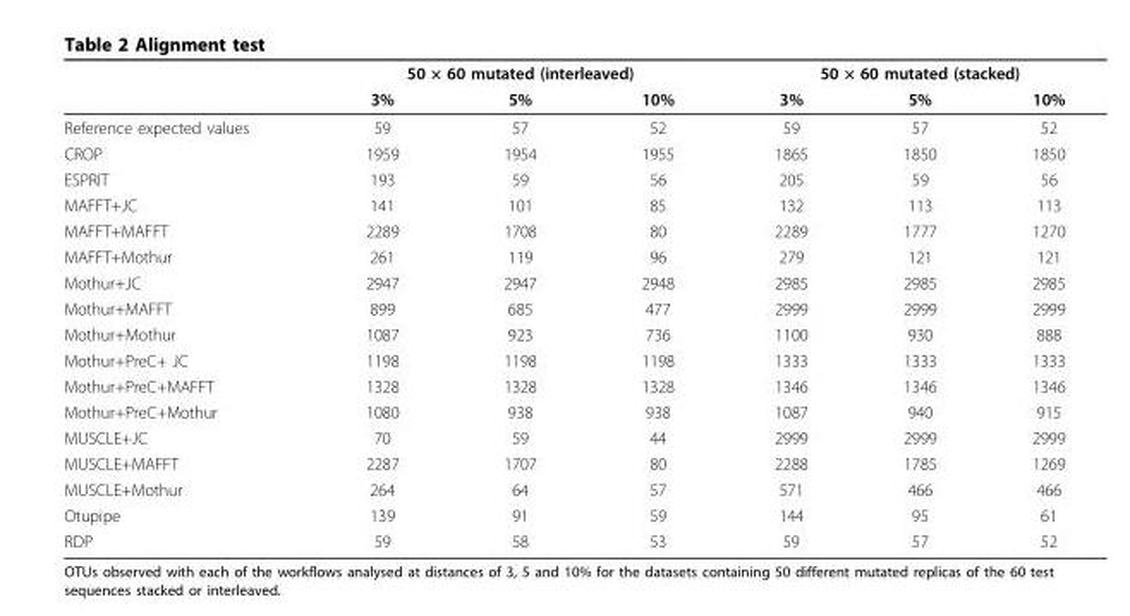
<table><thead><tr><td rowspan="2"></td><td colspan="3">50 × 60 mutated (interleaved)</td><td colspan="3">50 × 60 mutated (stacked)</td></tr><tr><td>3%</td><td>5%</td><td>10%</td><td>3%</td><td>5%</td><td>10%</td></tr></thead><tbody><tr><td>Reference expected values</td><td>59</td><td>57</td><td>52</td><td>59</td><td>57</td><td>52</td></tr><tr><td>CROP</td><td>1959</td><td>1954</td><td>1955</td><td>1865</td><td>1850</td><td>1850</td></tr><tr><td>ESPRIT</td><td>193</td><td>59</td><td>56</td><td>205</td><td>59</td><td>56</td></tr><tr><td>MAFFT+JC</td><td>141</td><td>101</td><td>85</td><td>132</td><td>113</td><td>113</td></tr><tr><td>MAFFT+MAFFT</td><td>2289</td><td>1708</td><td>80</td><td>2289</td><td>1777</td><td>1270</td></tr><tr><td>MAFFT+Mothur</td><td>261</td><td>119</td><td>96</td><td>279</td><td>121</td><td>121</td></tr><tr><td>Mothur+JC</td><td>2947</td><td>2947</td><td>2948</td><td>2985</td><td>2985</td><td>2985</td></tr><tr><td>Mothur+MAFFT</td><td>899</td><td>685</td><td>477</td><td>2999</td><td>2999</td><td>2999</td></tr><tr><td>Mothur+Mothur</td><td>1087</td><td>923</td><td>736</td><td>1100</td><td>930</td><td>888</td></tr><tr><td>Mothur+PreC+ JC</td><td>1198</td><td>1198</td><td>1198</td><td>1333</td><td>1333</td><td>1333</td></tr><tr><td>Mothur+PreC+MAFFT</td><td>1328</td><td>1328</td><td>1328</td><td>1346</td><td>1346</td><td>1346</td></tr><tr><td>Mothur+PreC+Mothur</td><td>1080</td><td>938</td><td>938</td><td>1087</td><td>940</td><td>915</td></tr><tr><td>MUSCLE+JC</td><td>70</td><td>59</td><td>44</td><td>2999</td><td>2999</td><td>2999</td></tr><tr><td>MUSCLE+MAFFT</td><td>2287</td><td>1707</td><td>80</td><td>2288</td><td>1785</td><td>1269</td></tr><tr><td>MUSCLE+Mothur</td><td>264</td><td>64</td><td>57</td><td>571</td><td>466</td><td>466</td></tr><tr><td>Otupipe</td><td>139</td><td>91</td><td>59</td><td>144</td><td>95</td><td>61</td></tr><tr><td>RDP</td><td>59</td><td>58</td><td>53</td><td>59</td><td>57</td><td>52</td></tr></tbody></table>